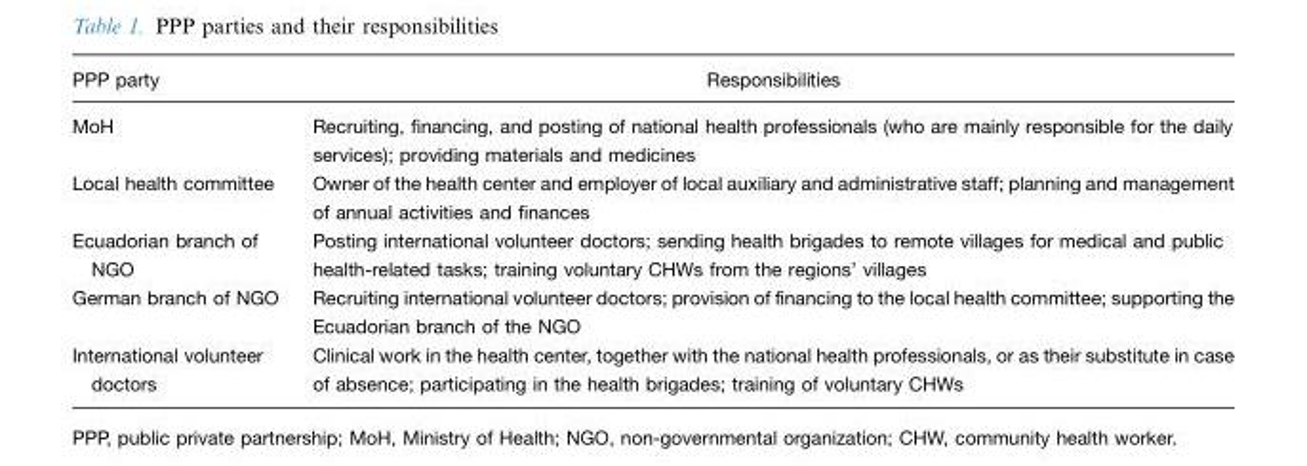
<table><thead><tr><td>PPP party</td><td>Responsibilities</td></tr></thead><tbody><tr><td>MoH</td><td>Recruiting, financing, and posting of national health professionals (who are mainly responsible for the daily services); providing materials and medicines</td></tr><tr><td>Local health committee</td><td>Owner of the health center and employer of local auxiliary and administrative staff; planning and management of annual activities and finances</td></tr><tr><td>Ecuadorian branch of NGO</td><td>Posting international volunteer doctors; sending health brigades to remote villages for medical and public health-related tasks; training voluntary CHWs from the regions’ villages</td></tr><tr><td>German branch of NGO</td><td>Recruiting international volunteer doctors; provision of financing to the local health committee; supporting the Ecuadorian branch of the NGO</td></tr><tr><td>International volunteer doctors</td><td>Clinical work in the health center, together with the national health professionals, or as their substitute in case of absence; participating in the health brigades; training of voluntary CHWs</td></tr></tbody></table>